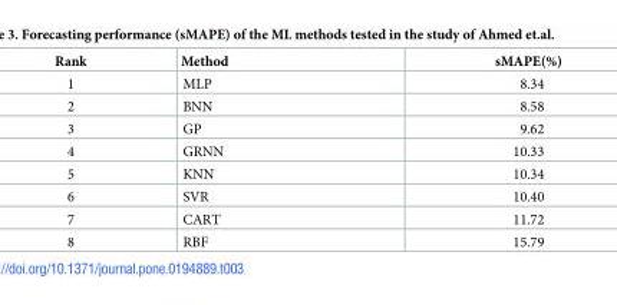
<table><thead><tr><td>Rank</td><td>Method</td><td>sMAPE(%)</td></tr></thead><tbody><tr><td>1</td><td>MLP</td><td>8.34</td></tr><tr><td>2</td><td>BNN</td><td>8.58</td></tr><tr><td>3</td><td>GP</td><td>9.62</td></tr><tr><td>4</td><td>GRNN</td><td>10.33</td></tr><tr><td>5</td><td>KNN</td><td>10.34</td></tr><tr><td>6</td><td>SVR</td><td>10.40</td></tr><tr><td>7</td><td>CART</td><td>11.72</td></tr><tr><td>8</td><td>RBF</td><td>15.79</td></tr></tbody></table>